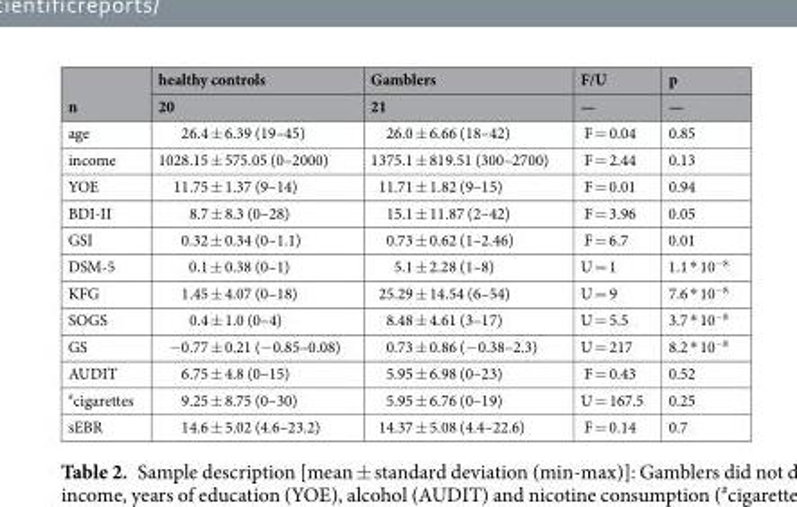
<table><thead><tr><td rowspan="2">n</td><td rowspan="2">healthy controls 20</td><td rowspan="2">Gamblers 21</td><td rowspan="2">F/U —</td><td rowspan="2">p —</td></tr><tr></tr></thead><tbody><tr><td>age</td><td>26.4 ± 6.39 (19–45)</td><td>26.0 ± 6.66 (18–42)</td><td>F = 0.04</td><td>0.85</td></tr><tr><td>income</td><td>1028.15 ± 575.05 (0–2000)</td><td>1375.1 ± 819.51 (300–2700)</td><td>F = 2.44</td><td>0.13</td></tr><tr><td>YOE</td><td>11.75 ± 1.37 (9–14)</td><td>11.71 ± 1.82 (9–15)</td><td>F = 0.01</td><td>0.94</td></tr><tr><td>BDI-II</td><td>8.7 ± 8.3 (0–28)</td><td>15.1 ± 11.87 (2–42)</td><td>F = 3.96</td><td>0.05</td></tr><tr><td>GSI</td><td>0.32 ± 0.34 (0–1.1)</td><td>0.73 ± 0.62 (1–2.46)</td><td>F = 6.7</td><td>0.01</td></tr><tr><td>DSM-5</td><td>0.1 ± 0.38 (0–1)</td><td>5.1 ± 2.28 (1–8)</td><td>U = 1</td><td>1.1 * 10<sup>−8</sup></td></tr><tr><td>KFG</td><td>1.45 ± 4.07 (0–18)</td><td>25.29 ± 14.54 (6–54)</td><td>U = 9</td><td>7.6 * 10<sup>−8</sup></td></tr><tr><td>SOGS</td><td>0.4 ± 1.0 (0–4)</td><td>8.48 ± 4.61 (3–17)</td><td>U = 5.5</td><td>3.7 * 10<sup>−8</sup></td></tr><tr><td>GS</td><td>−0.77 ± 0.21 (−0.85–0.08)</td><td>0.73 ± 0.86 (−0.38–2.3)</td><td>U = 217</td><td>8.2 * 10<sup>−8</sup></td></tr><tr><td>AUDIT</td><td>6.75 ± 4.8 (0–15)</td><td>5.95 ± 6.98 (0–23)</td><td>F = 0.43</td><td>0.52</td></tr><tr><td><sup>#</sup>cigarettes</td><td>9.25 ± 8.75 (0–30)</td><td>5.95 ± 6.76 (0–19)</td><td>U = 167.5</td><td>0.25</td></tr><tr><td>sEBR</td><td>14.6 ± 5.02 (4.6–23.2)</td><td>14.37 ± 5.08 (4.4–22.6)</td><td>F = 0.14</td><td>0.7</td></tr></tbody></table>